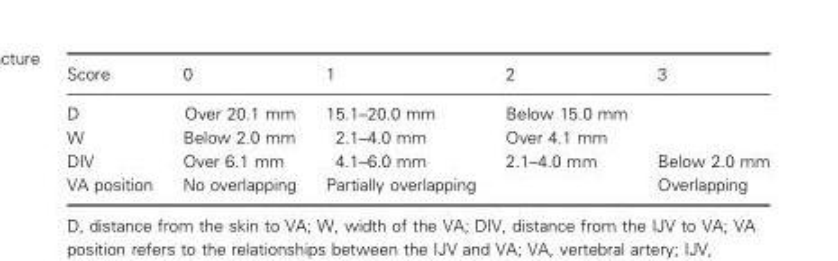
<table><thead><tr><td>Score</td><td>0</td><td>1</td><td>2</td><td>3</td></tr></thead><tbody><tr><td>D</td><td>Over 20.1 mm</td><td>15.1–20.0 mm</td><td>Below 15.0 mm</td><td></td></tr><tr><td>W</td><td>Below 2.0 mm</td><td>2.1–4.0 mm</td><td>Over 4.1 mm</td><td></td></tr><tr><td>DIV</td><td>Over 6.1 mm</td><td>4.1–6.0 mm</td><td>2.1–4.0 mm</td><td>Below 2.0 mm</td></tr><tr><td>VA position</td><td>No overlapping</td><td>Partially overlapping</td><td></td><td>Overlapping</td></tr></tbody></table>